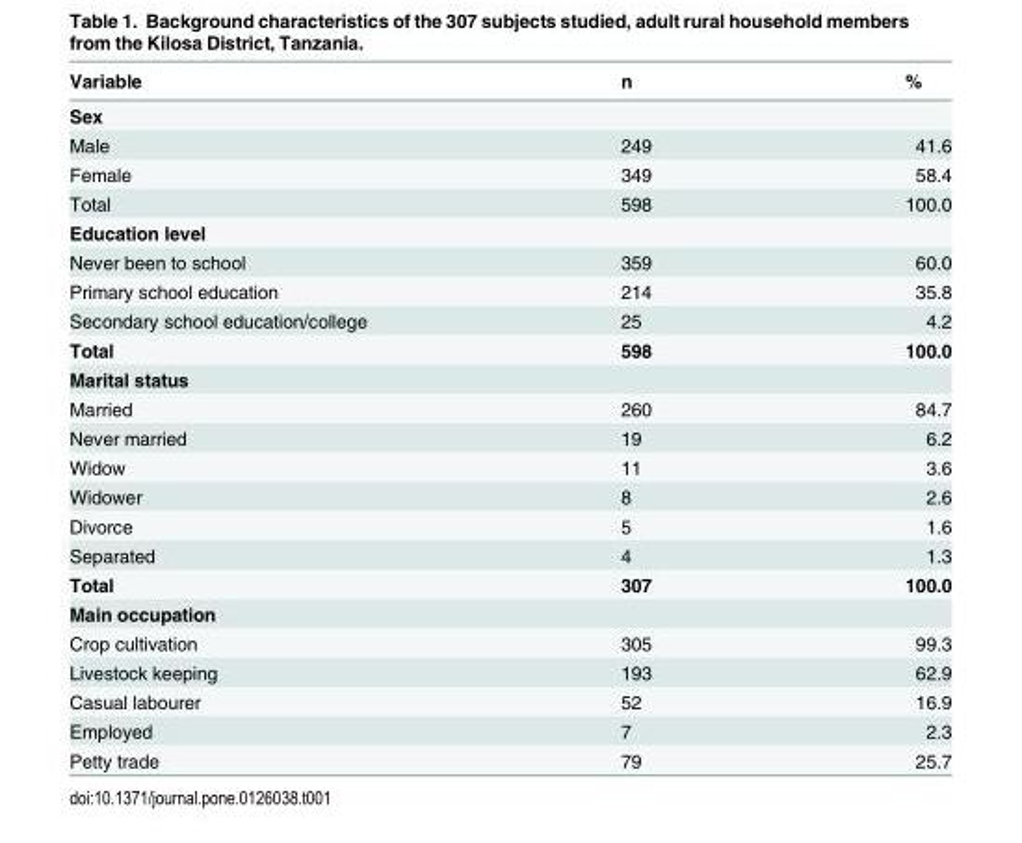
<table><thead><tr><td>Variable</td><td>n</td><td>%</td></tr></thead><tbody><tr><td colspan="3">Sex</td></tr><tr><td>Male</td><td>249</td><td>41.6</td></tr><tr><td>Female</td><td>349</td><td>58.4</td></tr><tr><td>Total</td><td>598</td><td>100.0</td></tr><tr><td colspan="3">Education level</td></tr><tr><td>Never been to school</td><td>359</td><td>60.0</td></tr><tr><td>Primary school education</td><td>214</td><td>35.8</td></tr><tr><td>Secondary school education/college</td><td>25</td><td>4.2</td></tr><tr><td>Total</td><td>598</td><td>100.0</td></tr><tr><td colspan="3">Marital status</td></tr><tr><td>Married</td><td>260</td><td>84.7</td></tr><tr><td>Never married</td><td>19</td><td>6.2</td></tr><tr><td>Widow</td><td>11</td><td>3.6</td></tr><tr><td>Widower</td><td>8</td><td>2.6</td></tr><tr><td>Divorce</td><td>5</td><td>1.6</td></tr><tr><td>Separated</td><td>4</td><td>1.3</td></tr><tr><td>Total</td><td>307</td><td>100.0</td></tr><tr><td colspan="3">Main occupation</td></tr><tr><td>Crop cultivation</td><td>305</td><td>99.3</td></tr><tr><td>Livestock keeping</td><td>193</td><td>62.9</td></tr><tr><td>Casual labourer</td><td>52</td><td>16.9</td></tr><tr><td>Employed</td><td>7</td><td>2.3</td></tr><tr><td>Petty trade</td><td>79</td><td>25.7</td></tr></tbody></table>